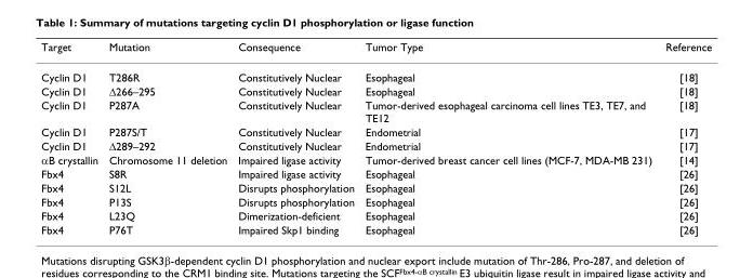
<table><thead><tr><td>Target</td><td>Mutation</td><td>Consequence</td><td>Tumor Type</td><td>Reference</td></tr></thead><tbody><tr><td>Cyclin D1</td><td>T286R</td><td>Constitutively Nuclear</td><td>Esophageal</td><td>[18]</td></tr><tr><td>Cyclin D1</td><td>Δ266–295</td><td>Constitutively Nuclear</td><td>Esophageal</td><td>[18]</td></tr><tr><td>Cyclin D1</td><td>P287A</td><td>Constitutively Nuclear</td><td>Tumor-derived esophageal carcinoma cell lines TE3, TE7, and TE12</td><td>[18]</td></tr><tr><td>Cyclin D1</td><td>P287S/T</td><td>Constitutively Nuclear</td><td>Endometrial</td><td>[17]</td></tr><tr><td>Cyclin D1</td><td>Δ289–292</td><td>Constitutively Nuclear</td><td>Endometrial</td><td>[17]</td></tr><tr><td>αB crystallin</td><td>Chromosome 11 deletion</td><td>Impaired ligase activity</td><td>Tumor-derived breast cancer cell lines (MCF-7, MDA-MB 231)</td><td>[14]</td></tr><tr><td>Fbx4</td><td>S8R</td><td>Impaired ligase activity</td><td>Esophageal</td><td>[26]</td></tr><tr><td>Fbx4</td><td>S12L</td><td>Disrupts phosphorylation</td><td>Esophageal</td><td>[26]</td></tr><tr><td>Fbx4</td><td>P13S</td><td>Disrupts phosphorylation</td><td>Esophageal</td><td>[26]</td></tr><tr><td>Fbx4</td><td>L23Q</td><td>Dimerization-deficient</td><td>Esophageal</td><td>[26]</td></tr><tr><td>Fbx4</td><td>P76T</td><td>Impaired Skp1 binding</td><td>Esophageal</td><td>[26]</td></tr></tbody></table>